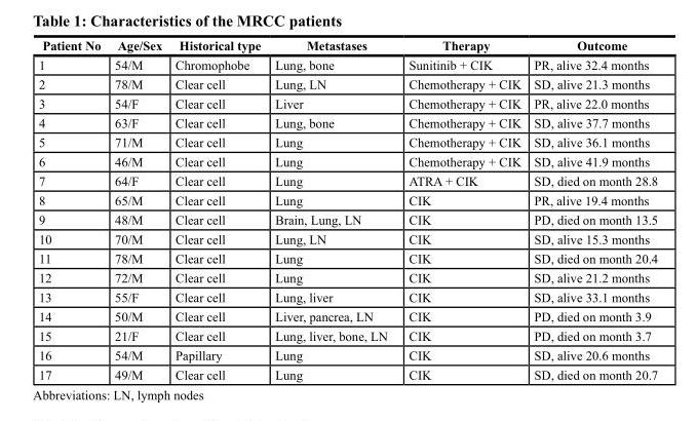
<table><thead><tr><td>Patient No</td><td>Age/Sex</td><td>Historical type</td><td>Metastases</td><td>Therapy</td><td>Outcome</td></tr></thead><tbody><tr><td>1</td><td>54/M</td><td>Chromophobe</td><td>Lung, bone</td><td>Sunitinib + CIK</td><td>PR, alive 32.4 months</td></tr><tr><td>2</td><td>78/M</td><td>Clear cell</td><td>Lung, LN</td><td>Chemotherapy + CIK</td><td>SD, alive 21.3 months</td></tr><tr><td>3</td><td>54/F</td><td>Clear cell</td><td>Liver</td><td>Chemotherapy + CIK</td><td>PR, alive 22.0 months</td></tr><tr><td>4</td><td>63/F</td><td>Clear cell</td><td>Lung, bone</td><td>Chemotherapy + CIK</td><td>SD, alive 37.7 months</td></tr><tr><td>5</td><td>71/M</td><td>Clear cell</td><td>Lung</td><td>Chemotherapy + CIK</td><td>SD, alive 36.1 months</td></tr><tr><td>6</td><td>46/M</td><td>Clear cell</td><td>Lung</td><td>Chemotherapy + CIK</td><td>SD, alive 41.9 months</td></tr><tr><td>7</td><td>64/F</td><td>Clear cell</td><td>Lung</td><td>ATRA + CIK</td><td>SD, died on month 28.8</td></tr><tr><td>8</td><td>65/M</td><td>Clear cell</td><td>Lung</td><td>CIK</td><td>PR, alive 19.4 months</td></tr><tr><td>9</td><td>48/M</td><td>Clear cell</td><td>Brain, Lung, LN</td><td>CIK</td><td>PD, died on month 13.5</td></tr><tr><td>10</td><td>70/M</td><td>Clear cell</td><td>Lung, LN</td><td>CIK</td><td>SD, alive 15.3 months</td></tr><tr><td>11</td><td>78/M</td><td>Clear cell</td><td>Lung</td><td>CIK</td><td>SD, died on month 20.4</td></tr><tr><td>12</td><td>72/M</td><td>Clear cell</td><td>Lung</td><td>CIK</td><td>SD, alive 21.2 months</td></tr><tr><td>13</td><td>55/F</td><td>Clear cell</td><td>Lung, liver</td><td>CIK</td><td>SD, alive 33.1 months</td></tr><tr><td>14</td><td>50/M</td><td>Clear cell</td><td>Liver, pancrea, LN</td><td>CIK</td><td>PD, died on month 3.9</td></tr><tr><td>15</td><td>21/F</td><td>Clear cell</td><td>Lung, liver, bone, LN</td><td>CIK</td><td>PD, died on month 3.7</td></tr><tr><td>16</td><td>54/M</td><td>Papillary</td><td>Lung</td><td>CIK</td><td>SD, alive 20.6 months</td></tr><tr><td>17</td><td>49/M</td><td>Clear cell</td><td>Lung</td><td>CIK</td><td>SD, died on month 20.7</td></tr></tbody></table>